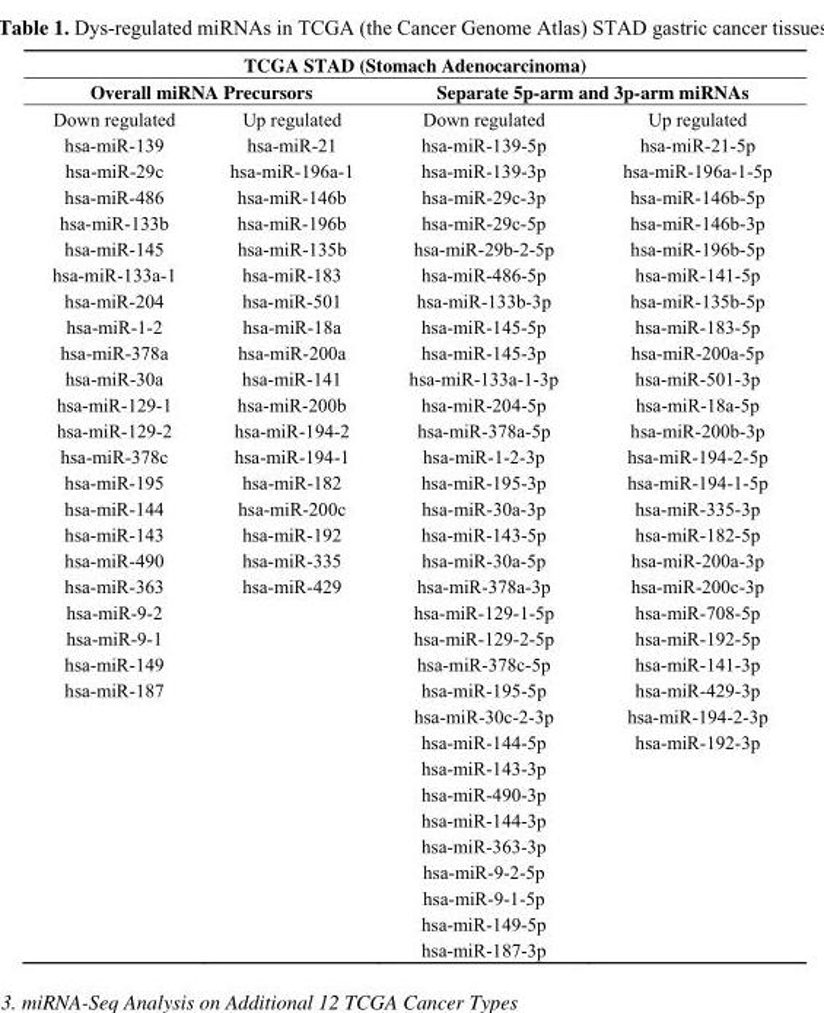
<table><thead><tr><td colspan="4">TCGA STAD (Stomach Adenocarcinoma)</td></tr><tr><td colspan="2">Overall miRNA Precursors</td><td colspan="2">Separate 5p-arm and 3p-arm miRNAs</td></tr><tr><td>Down regulated</td><td>Up regulated</td><td>Down regulated</td><td>Up regulated</td></tr></thead><tbody><tr><td>hsa-miR-139</td><td>hsa-miR-21</td><td>hsa-miR-139-5p</td><td>hsa-miR-21-5p</td></tr><tr><td>hsa-miR-29c</td><td>hsa-miR-196a-1</td><td>hsa-miR-139-3p</td><td>hsa-miR-196a-1-5p</td></tr><tr><td>hsa-miR-486</td><td>hsa-miR-146b</td><td>hsa-miR-29c-3p</td><td>hsa-miR-146b-5p</td></tr><tr><td>hsa-miR-133b</td><td>hsa-miR-196b</td><td>hsa-miR-29c-5p</td><td>hsa-miR-146b-3p</td></tr><tr><td>hsa-miR-145</td><td>hsa-miR-135b</td><td>hsa-miR-29b-2-5p</td><td>hsa-miR-196b-5p</td></tr><tr><td>hsa-miR-133a-1</td><td>hsa-miR-183</td><td>hsa-miR-486-5p</td><td>hsa-miR-141-5p</td></tr><tr><td>hsa-miR-204</td><td>hsa-miR-501</td><td>hsa-miR-133b-3p</td><td>hsa-miR-135b-5p</td></tr><tr><td>hsa-miR-1-2</td><td>hsa-miR-18a</td><td>hsa-miR-145-5p</td><td>hsa-miR-183-5p</td></tr><tr><td>hsa-miR-378a</td><td>hsa-miR-200a</td><td>hsa-miR-145-3p</td><td>hsa-miR-200a-5p</td></tr><tr><td>hsa-miR-30a</td><td>hsa-miR-141</td><td>hsa-miR-133a-1-3p</td><td>hsa-miR-501-3p</td></tr><tr><td>hsa-miR-129-1</td><td>hsa-miR-200b</td><td>hsa-miR-204-5p</td><td>hsa-miR-18a-5p</td></tr><tr><td>hsa-miR-129-2</td><td>hsa-miR-194-2</td><td>hsa-miR-378a-5p</td><td>hsa-miR-200b-3p</td></tr><tr><td>hsa-miR-378c</td><td>hsa-miR-194-1</td><td>hsa-miR-1-2-3p</td><td>hsa-miR-194-2-5p</td></tr><tr><td>hsa-miR-195</td><td>hsa-miR-182</td><td>hsa-miR-195-3p</td><td>hsa-miR-194-1-5p</td></tr><tr><td>hsa-miR-144</td><td>hsa-miR-200c</td><td>hsa-miR-30a-3p</td><td>hsa-miR-335-3p</td></tr><tr><td>hsa-miR-143</td><td>hsa-miR-192</td><td>hsa-miR-143-5p</td><td>hsa-miR-182-5p</td></tr><tr><td>hsa-miR-490</td><td>hsa-miR-335</td><td>hsa-miR-30a-5p</td><td>hsa-miR-200a-3p</td></tr><tr><td>hsa-miR-363</td><td>hsa-miR-429</td><td>hsa-miR-378a-3p</td><td>hsa-miR-200c-3p</td></tr><tr><td>hsa-miR-9-2</td><td></td><td>hsa-miR-129-1-5p</td><td>hsa-miR-708-5p</td></tr><tr><td>hsa-miR-9-1</td><td></td><td>hsa-miR-129-2-5p</td><td>hsa-miR-192-5p</td></tr><tr><td>hsa-miR-149</td><td></td><td>hsa-miR-378c-5p</td><td>hsa-miR-141-3p</td></tr><tr><td rowspan="11">hsa-miR-187</td><td></td><td>hsa-miR-195-5p</td><td>hsa-miR-429-3p</td></tr><tr><td></td><td>hsa-miR-30c-2-3p</td><td>hsa-miR-194-2-3p</td></tr><tr><td></td><td>hsa-miR-144-5p</td><td>hsa-miR-192-3p</td></tr><tr><td></td><td>hsa-miR-143-3p</td><td></td></tr><tr><td></td><td>hsa-miR-490-3p</td><td></td></tr><tr><td></td><td>hsa-miR-144-3p</td><td></td></tr><tr><td></td><td>hsa-miR-363-3p</td><td></td></tr><tr><td></td><td>hsa-miR-9-2-5p</td><td></td></tr><tr><td></td><td>hsa-miR-9-1-5p</td><td></td></tr><tr><td></td><td>hsa-miR-149-5p</td><td></td></tr><tr><td></td><td>hsa-miR-187-3p</td><td></td></tr></tbody></table>